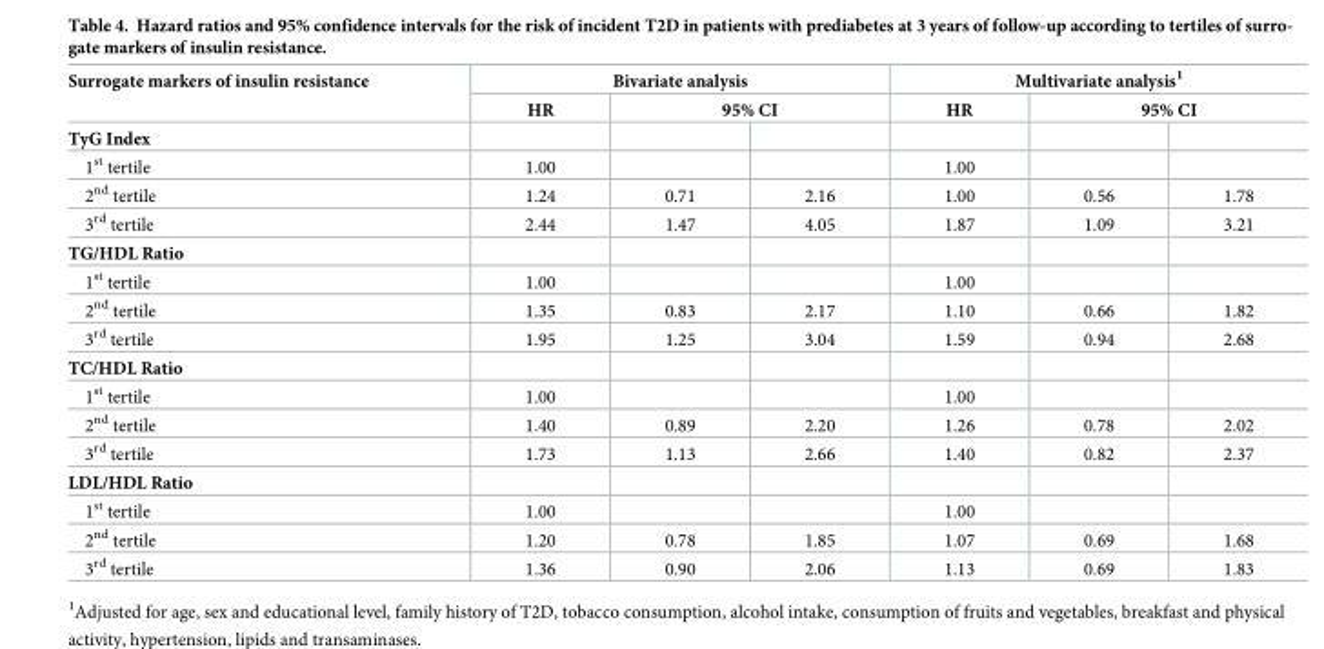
<table><thead><tr><td rowspan="3">Surrogate markers of insulin resistance TyG Index</td><td colspan="3">Bivariate analysis</td><td colspan="3">Multivariate analysis<sup>1</sup></td></tr><tr><td rowspan="2">HR</td><td colspan="2">95% CI</td><td rowspan="2">HR</td><td colspan="2">95% CI</td></tr><tr><td></td><td></td><td></td><td></td></tr></thead><tbody><tr><td>1<sup>st</sup> tertile</td><td>1.00</td><td></td><td></td><td>1.00</td><td></td><td></td></tr><tr><td>2<sup>nd</sup> tertile</td><td>1.24</td><td>0.71</td><td>2.16</td><td>1.00</td><td>0.56</td><td>1.78</td></tr><tr><td>3<sup>rd</sup> tertile</td><td>2.44</td><td>1.47</td><td>4.05</td><td>1.87</td><td>1.09</td><td>3.21</td></tr><tr><td colspan="7">TG/HDL Ratio</td></tr><tr><td>1<sup>st</sup> tertile</td><td>1.00</td><td></td><td></td><td>1.00</td><td></td><td></td></tr><tr><td>2<sup>nd</sup> tertile</td><td>1.35</td><td>0.83</td><td>2.17</td><td>1.10</td><td>0.66</td><td>1.82</td></tr><tr><td>3<sup>rd</sup> tertile</td><td>1.95</td><td>1.25</td><td>3.04</td><td>1.59</td><td>0.94</td><td>2.68</td></tr><tr><td colspan="7">TC/HDL Ratio</td></tr><tr><td>1<sup>st</sup> tertile</td><td>1.00</td><td></td><td></td><td>1.00</td><td></td><td></td></tr><tr><td>2<sup>nd</sup> tertile</td><td>1.40</td><td>0.89</td><td>2.20</td><td>1.26</td><td>0.78</td><td>2.02</td></tr><tr><td>3<sup>rd</sup> tertile</td><td>1.73</td><td>1.13</td><td>2.66</td><td>1.40</td><td>0.82</td><td>2.37</td></tr><tr><td colspan="7">LDL/HDL Ratio</td></tr><tr><td>1<sup>st</sup> tertile</td><td>1.00</td><td></td><td></td><td>1.00</td><td></td><td></td></tr><tr><td>2<sup>nd</sup> tertile</td><td>1.20</td><td>0.78</td><td>1.85</td><td>1.07</td><td>0.69</td><td>1.68</td></tr><tr><td>3<sup>rd</sup> tertile</td><td>1.36</td><td>0.90</td><td>2.06</td><td>1.13</td><td>0.69</td><td>1.83</td></tr></tbody></table>